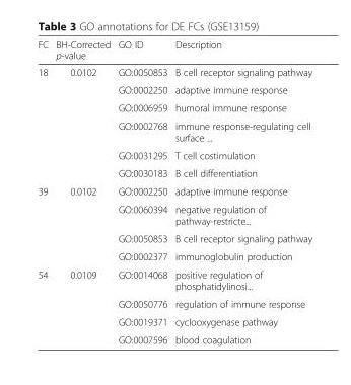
<table><thead><tr><td>FC</td><td>BH-Corrected p-value</td><td>GO ID</td><td>Description</td></tr></thead><tbody><tr><td rowspan="6">18</td><td rowspan="6">0.0102</td><td>GO:0050853</td><td>B cell receptor signaling pathway</td></tr><tr><td>GO:0002250</td><td>adaptive immune response</td></tr><tr><td>GO:0006959</td><td>humoral immune response</td></tr><tr><td>GO:0002768</td><td>immune response-regulating cell surface ...</td></tr><tr><td>GO:0031295</td><td>T cell costimulation</td></tr><tr><td>GO:0030183</td><td>B cell differentiation</td></tr><tr><td rowspan="4">39</td><td rowspan="4">0.0102</td><td>GO:0002250</td><td>adaptive immune response</td></tr><tr><td>GO:0060394</td><td>negative regulation of pathway-restricte...</td></tr><tr><td>GO:0050853</td><td>B cell receptor signaling pathway</td></tr><tr><td>GO:0002377</td><td>immunoglobulin production</td></tr><tr><td rowspan="4">54</td><td rowspan="4">0.0109</td><td>GO:0014068</td><td>positive regulation of phosphatidylinosi...</td></tr><tr><td>GO:0050776</td><td>regulation of immune response</td></tr><tr><td>GO:0019371</td><td>cyclooxygenase pathway</td></tr><tr><td>GO:0007596</td><td>blood coagulation</td></tr></tbody></table>